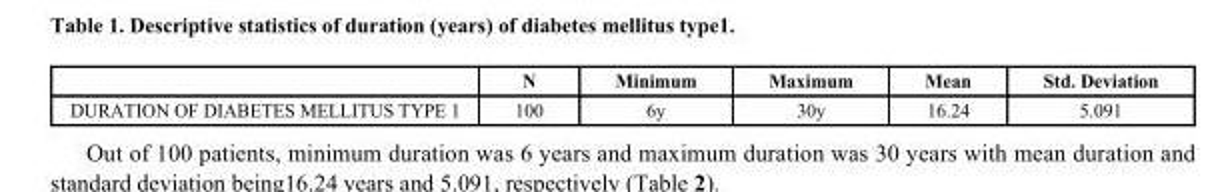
<table><thead><tr><td></td><td>N</td><td>Minimum</td><td>Maximum</td><td>Mean</td><td>Std. Deviation</td></tr></thead><tbody><tr><td>DURATION OF DIABETES MELLITUS TYPE 1</td><td>100</td><td>6y</td><td>30y</td><td>16.24</td><td>5.091</td></tr></tbody></table>